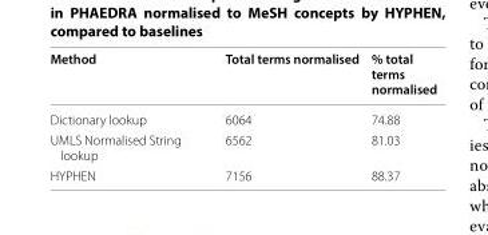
<table><thead><tr><td>Method</td><td>Total terms normalised</td><td>% total terms normalised</td></tr></thead><tbody><tr><td>Dictionary lookup</td><td>6064</td><td>74.88</td></tr><tr><td>UMLS Normalised String lookup</td><td>6562</td><td>81.03</td></tr><tr><td>HYPHEN</td><td>7156</td><td>88.37</td></tr></tbody></table>